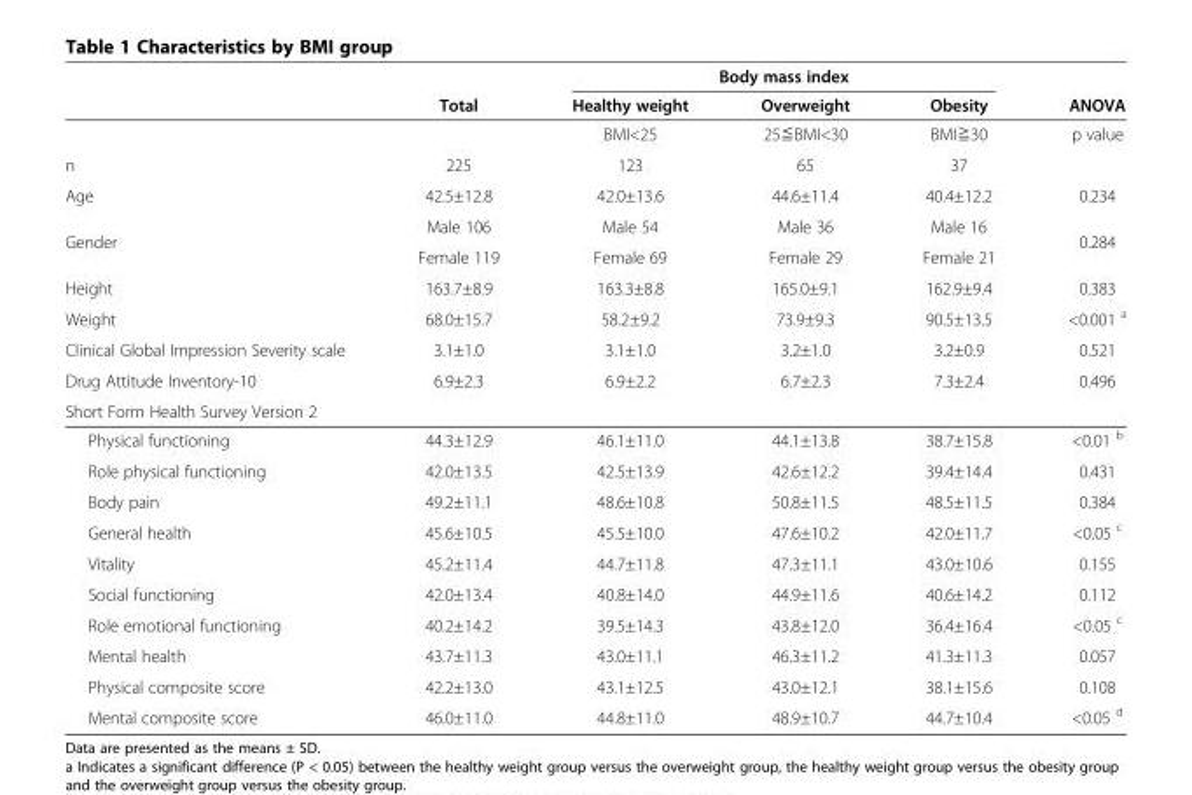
<table><thead><tr><td rowspan="2"></td><td rowspan="2">Total</td><td colspan="3">Body mass index</td><td rowspan="2">ANOVA</td></tr><tr><td>Healthy weight</td><td>Overweight</td><td>Obesity</td></tr></thead><tbody><tr><td></td><td></td><td>BMI&lt;25</td><td>25≦BMI&lt;30</td><td>BMI≧30</td><td>p value</td></tr><tr><td>n</td><td>225</td><td>123</td><td>65</td><td>37</td><td></td></tr><tr><td>Age</td><td>42.5±12.8</td><td>42.0±13.6</td><td>44.6±11.4</td><td>40.4±12.2</td><td>0.234</td></tr><tr><td rowspan="2">Gender</td><td>Male 106</td><td>Male 54</td><td>Male 36</td><td>Male 16</td><td rowspan="2">0.284</td></tr><tr><td>Female 119</td><td>Female 69</td><td>Female 29</td><td>Female 21</td></tr><tr><td>Height</td><td>163.7±8.9</td><td>163.3±8.8</td><td>165.0±9.1</td><td>162.9±9.4</td><td>0.383</td></tr><tr><td>Weight</td><td>68.0±15.7</td><td>58.2±9.2</td><td>73.9±9.3</td><td>90.5±13.5</td><td>&lt;0.001 <sup>a</sup></td></tr><tr><td>Clinical Global Impression Severity scale</td><td>3.1±1.0</td><td>3.1±1.0</td><td>3.2±1.0</td><td>3.2±0.9</td><td>0.521</td></tr><tr><td>Drug Attitude Inventory-10</td><td>6.9±2.3</td><td>6.9±2.2</td><td>6.7±2.3</td><td>7.3±2.4</td><td>0.496</td></tr><tr><td colspan="6">Short Form Health Survey Version 2</td></tr><tr><td>Physical functioning</td><td>44.3±12.9</td><td>46.1±11.0</td><td>44.1±13.8</td><td>38.7±15.8</td><td>&lt;0.01 <sup>b</sup></td></tr><tr><td>Role physical functioning</td><td>42.0±13.5</td><td>42.5±13.9</td><td>42.6±12.2</td><td>39.4±14.4</td><td>0.431</td></tr><tr><td>Body pain</td><td>49.2±11.1</td><td>48.6±10.8</td><td>50.8±11.5</td><td>48.5±11.5</td><td>0.384</td></tr><tr><td>General health</td><td>45.6±10.5</td><td>45.5±10.0</td><td>47.6±10.2</td><td>42.0±11.7</td><td>&lt;0.05 <sup>c</sup></td></tr><tr><td>Vitality</td><td>45.2±11.4</td><td>44.7±11.8</td><td>47.3±11.1</td><td>43.0±10.6</td><td>0.155</td></tr><tr><td>Social functioning</td><td>42.0±13.4</td><td>40.8±14.0</td><td>44.9±11.6</td><td>40.6±14.2</td><td>0.112</td></tr><tr><td>Role emotional functioning</td><td>40.2±14.2</td><td>39.5±14.3</td><td>43.8±12.0</td><td>36.4±16.4</td><td>&lt;0.05 <sup>c</sup></td></tr><tr><td>Mental health</td><td>43.7±11.3</td><td>43.0±11.1</td><td>46.3±11.2</td><td>41.3±11.3</td><td>0.057</td></tr><tr><td>Physical composite score</td><td>42.2±13.0</td><td>43.1±12.5</td><td>43.0±12.1</td><td>38.1±15.6</td><td>0.108</td></tr><tr><td>Mental composite score</td><td>46.0±11.0</td><td>44.8±11.0</td><td>48.9±10.7</td><td>44.7±10.4</td><td>&lt;0.05 <sup>d</sup></td></tr></tbody></table>